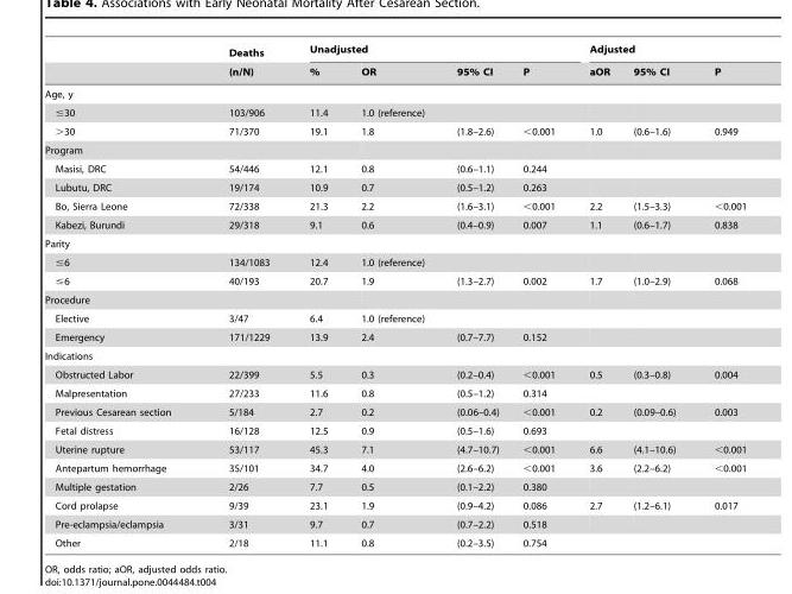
<table><thead><tr><td rowspan="2"></td><td rowspan="2">Deaths (n/N)</td><td colspan="4">Unadjusted</td><td colspan="3">Adjusted</td></tr><tr><td>%</td><td>OR</td><td>95% CI</td><td>P</td><td>aOR</td><td>95% CI</td><td>P</td></tr></thead><tbody><tr><td colspan="9">Age, y</td></tr><tr><td>≤30</td><td>103/906</td><td>11.4</td><td>1.0 (reference)</td><td></td><td></td><td></td><td></td><td></td></tr><tr><td>&gt;30</td><td>71/370</td><td>19.1</td><td>1.8</td><td>(1.8–2.6)</td><td>&lt;0.001</td><td>1.0</td><td>(0.6–1.6)</td><td>0.949</td></tr><tr><td colspan="9">Program</td></tr><tr><td>Masisi, DRC</td><td>54/446</td><td>12.1</td><td>0.8</td><td>(0.6–1.1)</td><td>0.244</td><td></td><td></td><td></td></tr><tr><td>Lubutu, DRC</td><td>19/174</td><td>10.9</td><td>0.7</td><td>(0.5–1.2)</td><td>0.263</td><td></td><td></td><td></td></tr><tr><td>Bo, Sierra Leone</td><td>72/338</td><td>21.3</td><td>2.2</td><td>(1.6–3.1)</td><td>&lt;0.001</td><td>2.2</td><td>(1.5–3.3)</td><td>&lt;0.001</td></tr><tr><td>Kabezi, Burundi</td><td>29/318</td><td>9.1</td><td>0.6</td><td>(0.4–0.9)</td><td>0.007</td><td>1.1</td><td>(0.6–1.7)</td><td>0.838</td></tr><tr><td colspan="9">Parity</td></tr><tr><td>≤6</td><td>134/1083</td><td>12.4</td><td>1.0 (reference)</td><td></td><td></td><td></td><td></td><td></td></tr><tr><td>≤6</td><td>40/193</td><td>20.7</td><td>1.9</td><td>(1.3–2.7)</td><td>0.002</td><td>1.7</td><td>(1.0–2.9)</td><td>0.068</td></tr><tr><td colspan="9">Procedure</td></tr><tr><td>Elective</td><td>3/47</td><td>6.4</td><td>1.0 (reference)</td><td></td><td></td><td></td><td></td><td></td></tr><tr><td>Emergency</td><td>171/1229</td><td>13.9</td><td>2.4</td><td>(0.7–7.7)</td><td>0.152</td><td></td><td></td><td></td></tr><tr><td colspan="9">Indications</td></tr><tr><td>Obstructed Labor</td><td>22/399</td><td>5.5</td><td>0.3</td><td>(0.2–0.4)</td><td>&lt;0.001</td><td>0.5</td><td>(0.3–0.8)</td><td>0.004</td></tr><tr><td>Malpresentation</td><td>27/233</td><td>11.6</td><td>0.8</td><td>(0.5–1.2)</td><td>0.314</td><td></td><td></td><td></td></tr><tr><td>Previous Cesarean section</td><td>5/184</td><td>2.7</td><td>0.2</td><td>(0.06–0.4)</td><td>&lt;0.001</td><td>0.2</td><td>(0.09–0.6)</td><td>0.003</td></tr><tr><td>Fetal distress</td><td>16/128</td><td>12.5</td><td>0.9</td><td>(0.5–1.6)</td><td>0.693</td><td></td><td></td><td></td></tr><tr><td>Uterine rupture</td><td>53/117</td><td>45.3</td><td>7.1</td><td>(4.7–10.7)</td><td>&lt;0.001</td><td>6.6</td><td>(4.1–10.6)</td><td>&lt;0.001</td></tr><tr><td>Antepartum hemorrhage</td><td>35/101</td><td>34.7</td><td>4.0</td><td>(2.6–6.2)</td><td>&lt;0.001</td><td>3.6</td><td>(2.2–6.2)</td><td>&lt;0.001</td></tr><tr><td>Multiple gestation</td><td>2/26</td><td>7.7</td><td>0.5</td><td>(0.1–2.2)</td><td>0.380</td><td></td><td></td><td></td></tr><tr><td>Cord prolapse</td><td>9/39</td><td>23.1</td><td>1.9</td><td>(0.9–4.2)</td><td>0.086</td><td>2.7</td><td>(1.2–6.1)</td><td>0.017</td></tr><tr><td>Pre-eclampsia/eclampsia</td><td>3/31</td><td>9.7</td><td>0.7</td><td>(0.7–2.2)</td><td>0.518</td><td></td><td></td><td></td></tr><tr><td>Other</td><td>2/18</td><td>11.1</td><td>0.8</td><td>(0.2–3.5)</td><td>0.754</td><td></td><td></td><td></td></tr></tbody></table>